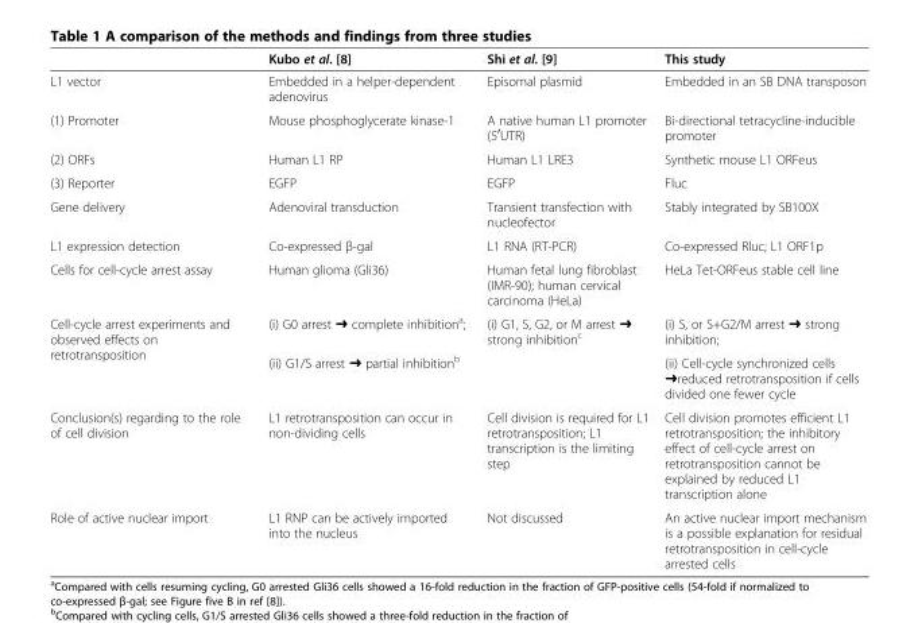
<table><thead><tr><td></td><td>Kubo et al. [8]</td><td>Shi et al. [9]</td><td>This study</td></tr></thead><tbody><tr><td>L1 vector</td><td>Embedded in a helper-dependent adenovirus</td><td>Episomal plasmid</td><td>Embedded in an SB DNA transposon</td></tr><tr><td>(1) Promoter</td><td>Mouse phosphoglycerate kinase-1</td><td>A native human L1 promoter (5<sup>′</sup>UTR)</td><td>Bi-directional tetracycline-inducible promoter</td></tr><tr><td>(2) ORFs</td><td>Human L1 RP</td><td>Human L1 LRE3</td><td>Synthetic mouse L1 ORFeus</td></tr><tr><td>(3) Reporter</td><td>EGFP</td><td>EGFP</td><td>Fluc</td></tr><tr><td>Gene delivery</td><td>Adenoviral transduction</td><td>Transient transfection with nucleofector</td><td>Stably integrated by SB100X</td></tr><tr><td>L1 expression detection</td><td>Co-expressed β-gal</td><td>L1 RNA (RT-PCR)</td><td>Co-expressed Rluc; L1 ORF1p</td></tr><tr><td>Cells for cell-cycle arrest assay</td><td>Human glioma (Gli36)</td><td>Human fetal lung fibroblast (IMR-90); human cervical carcinoma (HeLa)</td><td>HeLa Tet-ORFeus stable cell line</td></tr><tr><td rowspan="2">Cell-cycle arrest experiments and observed effects on retrotransposition</td><td>(i) G0 arrest ➜ complete inhibition<sup>a</sup>;</td><td rowspan="2">(i) G1, S, G2, or M arrest ➜ strong inhibition<sup>c</sup></td><td>(i) S, or S+G2/M arrest ➜ strong inhibition;</td></tr><tr><td>(ii) G1/S arrest ➜ partial inhibition<sup>b</sup></td><td>(ii) Cell-cycle synchronized cells ➜reduced retrotransposition if cells divided one fewer cycle</td></tr><tr><td>Conclusion(s) regarding to the role of cell division</td><td>L1 retrotransposition can occur in non-dividing cells</td><td>Cell division is required for L1 retrotransposition; L1 transcription is the limiting step</td><td>Cell division promotes efficient L1 retrotransposition; the inhibitory effect of cell-cycle arrest on retrotransposition cannot be explained by reduced L1 transcription alone</td></tr><tr><td>Role of active nuclear import</td><td>L1 RNP can be actively imported into the nucleus</td><td>Not discussed</td><td>An active nuclear import mechanism is a possible explanation for residual retrotransposition in cell-cycle arrested cells</td></tr></tbody></table>